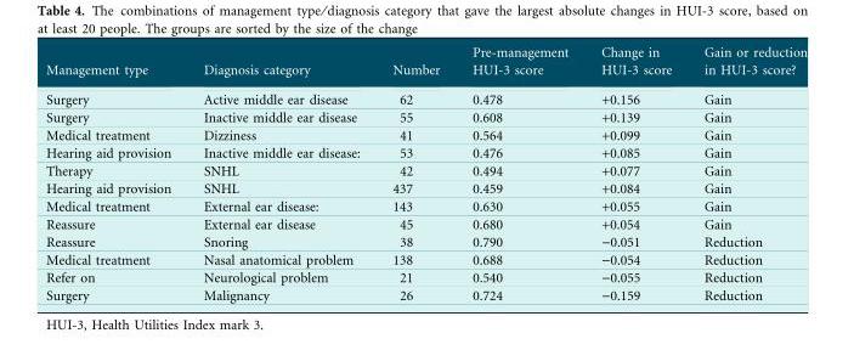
<table><thead><tr><td>Management type</td><td>Diagnosis category</td><td>Number</td><td>Pre-management HUI-3 score</td><td>Change in HUI-3 score</td><td>Gain or reduction in HUI-3 score?</td></tr></thead><tbody><tr><td>Surgery</td><td>Active middle ear disease</td><td>62</td><td>0.478</td><td>+0.156</td><td>Gain</td></tr><tr><td>Surgery</td><td>Inactive middle ear disease</td><td>55</td><td>0.608</td><td>+0.139</td><td>Gain</td></tr><tr><td>Medical treatment</td><td>Dizziness</td><td>41</td><td>0.564</td><td>+0.099</td><td>Gain</td></tr><tr><td>Hearing aid provision</td><td>Inactive middle ear disease:</td><td>53</td><td>0.476</td><td>+0.085</td><td>Gain</td></tr><tr><td>Therapy</td><td>SNHL</td><td>42</td><td>0.494</td><td>+0.077</td><td>Gain</td></tr><tr><td>Hearing aid provision</td><td>SNHL</td><td>437</td><td>0.459</td><td>+0.084</td><td>Gain</td></tr><tr><td>Medical treatment</td><td>External ear disease:</td><td>143</td><td>0.630</td><td>+0.055</td><td>Gain</td></tr><tr><td>Reassure</td><td>External ear disease</td><td>45</td><td>0.680</td><td>+0.054</td><td>Gain</td></tr><tr><td>Reassure</td><td>Snoring</td><td>38</td><td>0.790</td><td>−0.051</td><td>Reduction</td></tr><tr><td>Medical treatment</td><td>Nasal anatomical problem</td><td>138</td><td>0.688</td><td>−0.054</td><td>Reduction</td></tr><tr><td>Refer on</td><td>Neurological problem</td><td>21</td><td>0.540</td><td>−0.055</td><td>Reduction</td></tr><tr><td>Surgery</td><td>Malignancy</td><td>26</td><td>0.724</td><td>−0.159</td><td>Reduction</td></tr></tbody></table>